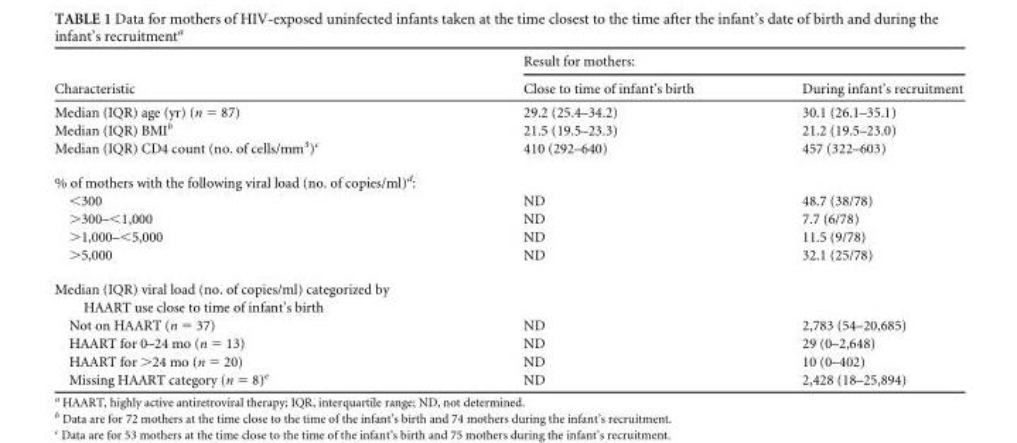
<table><thead><tr><td rowspan="2">Characteristic</td><td colspan="2">Result for mothers:</td></tr><tr><td>Close to time of infant’s birth</td><td>During infant’s recruitment</td></tr></thead><tbody><tr><td>Median (IQR) age (yr) (n = 87)</td><td>29.2 (25.4–34.2)</td><td>30.1 (26.1–35.1)</td></tr><tr><td>Median (IQR) BMI<sup>b</sup></td><td>21.5 (19.5–23.3)</td><td>21.2 (19.5–23.0)</td></tr><tr><td>Median (IQR) CD4 count (no. of cells/mm<sup>3</sup>)<sup>c</sup></td><td>410 (292–640)</td><td>457 (322–603)</td></tr><tr><td colspan="3">% of mothers with the following viral load (no. of copies/ml)<sup>d</sup>:</td></tr><tr><td>&lt;300</td><td>ND</td><td>48.7 (38/78)</td></tr><tr><td>&gt;300–&lt;1,000</td><td>ND</td><td>7.7 (6/78)</td></tr><tr><td>&gt;1,000–&lt;5,000</td><td>ND</td><td>11.5 (9/78)</td></tr><tr><td>&gt;5,000</td><td>ND</td><td>32.1 (25/78)</td></tr><tr><td colspan="3">Median (IQR) viral load (no. of copies/ml) categorized by HAART use close to time of infant’s birth</td></tr><tr><td>Not on HAART (n = 37)</td><td>ND</td><td>2,783 (54–20,685)</td></tr><tr><td>HAART for 0–24 mo (n = 13)</td><td>ND</td><td>29 (0–2,648)</td></tr><tr><td>HAART for &gt;24 mo (n = 20)</td><td>ND</td><td>10 (0–402)</td></tr><tr><td>Missing HAART category (n = 8)<sup>e</sup></td><td>ND</td><td>2,428 (18–25,894)</td></tr></tbody></table>